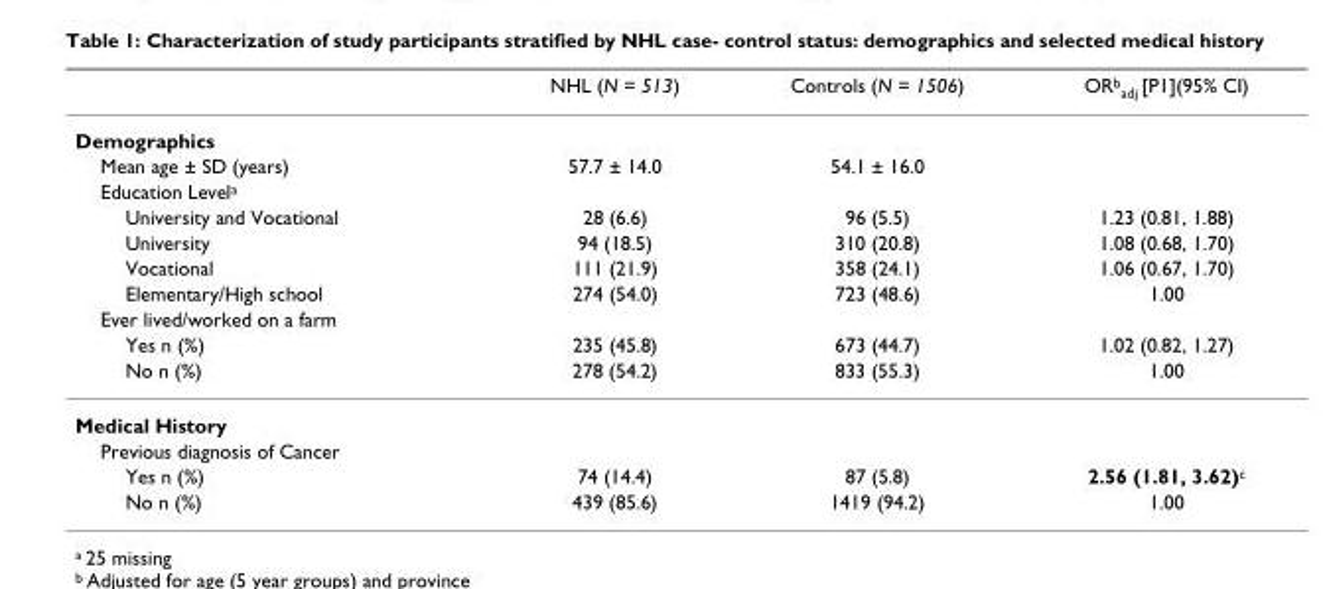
<table><thead><tr><td></td><td>NHL (N = 513)</td><td>Controls (N = 1506)</td><td>OR<sup>b</sup><sub>adj</sub> [P1](95% CI)</td></tr></thead><tbody><tr><td colspan="4">Demographics</td></tr><tr><td>Mean age ± SD (years)</td><td>57.7 ± 14.0</td><td>54.1 ± 16.0</td><td></td></tr><tr><td colspan="4">Education Level<sup>a</sup></td></tr><tr><td>University and Vocational</td><td>28 (6.6)</td><td>96 (5.5)</td><td>1.23 (0.81, 1.88)</td></tr><tr><td>University</td><td>94 (18.5)</td><td>310 (20.8)</td><td>1.08 (0.68, 1.70)</td></tr><tr><td>Vocational</td><td>111 (21.9)</td><td>358 (24.1)</td><td>1.06 (0.67, 1.70)</td></tr><tr><td>Elementary/High school</td><td>274 (54.0)</td><td>723 (48.6)</td><td>1.00</td></tr><tr><td colspan="4">Ever lived/worked on a farm</td></tr><tr><td>Yes n (%)</td><td>235 (45.8)</td><td>673 (44.7)</td><td>1.02 (0.82, 1.27)</td></tr><tr><td>No n (%)</td><td>278 (54.2)</td><td>833 (55.3)</td><td>1.00</td></tr><tr><td colspan="4">Medical History</td></tr><tr><td colspan="4">Previous diagnosis of Cancer</td></tr><tr><td>Yes n (%)</td><td>74 (14.4)</td><td>87 (5.8)</td><td>2.56 (1.81, 3.62)<sup>c</sup></td></tr><tr><td>No n (%)</td><td>439 (85.6)</td><td>1419 (94.2)</td><td>1.00</td></tr></tbody></table>